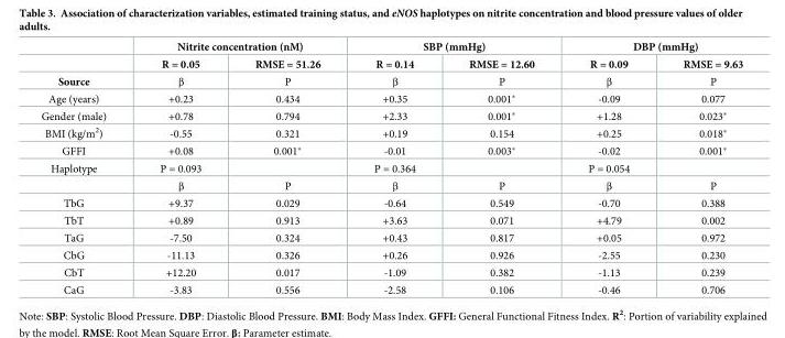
<table><thead><tr><td rowspan="2"></td><td colspan="2">Nitrite concentration (nM)</td><td colspan="2">SBP (mmHg)</td><td colspan="2">DBP (mmHg)</td></tr><tr><td>R = 0.05</td><td>RMSE = 51.26</td><td>R = 0.14</td><td>RMSE = 12.60</td><td>R = 0.09</td><td>RMSE = 9.63</td></tr></thead><tbody><tr><td>Source</td><td>β</td><td>P</td><td>β</td><td>P</td><td>β</td><td>P</td></tr><tr><td>Age (years)</td><td>+0.23</td><td>0.434</td><td>+0.35</td><td>0.001*</td><td>-0.09</td><td>0.077</td></tr><tr><td>Gender (male)</td><td>+0.78</td><td>0.794</td><td>+2.33</td><td>0.001*</td><td>+1.28</td><td>0.023*</td></tr><tr><td>BMI (kg/m<sup>2</sup>)</td><td>-0.55</td><td>0.321</td><td>+0.19</td><td>0.154</td><td>+0.25</td><td>0.018*</td></tr><tr><td>GFFI</td><td>+0.08</td><td>0.001*</td><td>-0.01</td><td>0.003*</td><td>-0.02</td><td>0.001*</td></tr><tr><td rowspan="2">Haplotype</td><td>P = 0.093</td><td></td><td>P = 0.364</td><td></td><td>P = 0.054</td><td></td></tr><tr><td>β</td><td>P</td><td>β</td><td>P</td><td>β</td><td>P</td></tr><tr><td>TbG</td><td>+9.37</td><td>0.029</td><td>-0.64</td><td>0.549</td><td>-0.70</td><td>0.388</td></tr><tr><td>TbT</td><td>+0.89</td><td>0.913</td><td>+3.63</td><td>0.071</td><td>+4.79</td><td>0.002</td></tr><tr><td>TaG</td><td>-7.50</td><td>0.324</td><td>+0.43</td><td>0.817</td><td>+0.05</td><td>0.972</td></tr><tr><td>CbG</td><td>-11.13</td><td>0.326</td><td>+0.26</td><td>0.926</td><td>-2.55</td><td>0.230</td></tr><tr><td>CbT</td><td>+12.20</td><td>0.017</td><td>-1.09</td><td>0.382</td><td>-1.13</td><td>0.239</td></tr><tr><td>CaG</td><td>-3.83</td><td>0.556</td><td>-2.58</td><td>0.106</td><td>-0.46</td><td>0.706</td></tr></tbody></table>